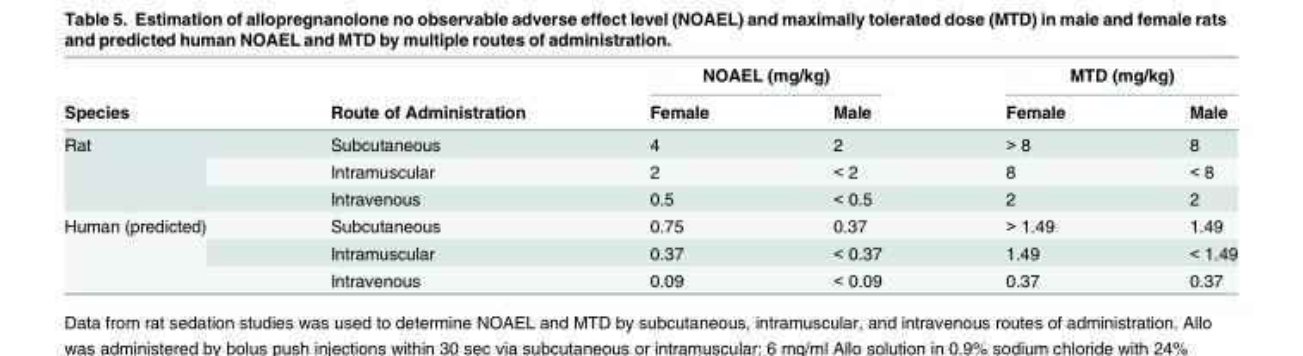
<table><thead><tr><td rowspan="2">Species</td><td rowspan="2">Route of Administration</td><td colspan="2">NOAEL (mg/kg)</td><td colspan="2">MTD (mg/kg)</td></tr><tr><td>Female</td><td>Male</td><td>Female</td><td>Male</td></tr></thead><tbody><tr><td rowspan="3">Rat</td><td>Subcutaneous</td><td>4</td><td>2</td><td>&gt; 8</td><td>8</td></tr><tr><td>Intramuscular</td><td>2</td><td>&lt; 2</td><td>8</td><td>&lt; 8</td></tr><tr><td>Intravenous</td><td>0.5</td><td>&lt; 0.5</td><td>2</td><td>2</td></tr><tr><td rowspan="3">Human (predicted)</td><td>Subcutaneous</td><td>0.75</td><td>0.37</td><td>&gt; 1.49</td><td>1.49</td></tr><tr><td>Intramuscular</td><td>0.37</td><td>&lt; 0.37</td><td>1.49</td><td>&lt; 1.49</td></tr><tr><td>Intravenous</td><td>0.09</td><td>&lt; 0.09</td><td>0.37</td><td>0.37</td></tr></tbody></table>